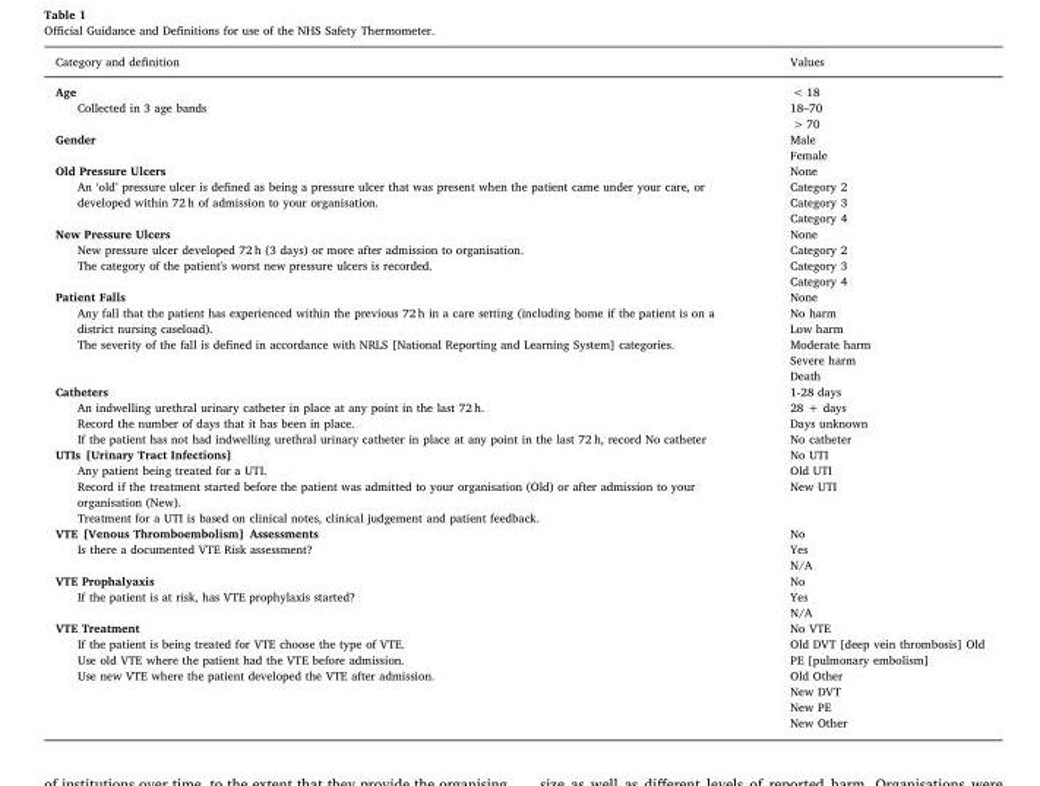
<table><thead><tr><td>Category and definition</td><td>Values</td></tr></thead><tbody><tr><td rowspan="3">Age Collected in 3 age bands</td><td>&lt; 18</td></tr><tr><td>18–70</td></tr><tr><td>&gt; 70</td></tr><tr><td rowspan="2">Gender</td><td>Male</td></tr><tr><td>Female</td></tr><tr><td rowspan="4">Old Pressure Ulcers An ‘old’ pressure ulcer is defined as being a pressure ulcer that was present when the patient came under your care, or developed within 72 h of admission to your organisation.</td><td>None</td></tr><tr><td>Category 2</td></tr><tr><td>Category 3</td></tr><tr><td>Category 4</td></tr><tr><td rowspan="4">New Pressure Ulcers New pressure ulcer developed 72 h (3 days) or more after admission to organisation. The category of the patient&#x27;s worst new pressure ulcers is recorded.</td><td>None</td></tr><tr><td>Category 2</td></tr><tr><td>Category 3</td></tr><tr><td>Category 4</td></tr><tr><td rowspan="6">Patient Falls Any fall that the patient has experienced within the previous 72 h in a care setting (including home if the patient is on a district nursing caseload). The severity of the fall is defined in accordance with NRLS [National Reporting and Learning System] categories.</td><td>None</td></tr><tr><td>No harm</td></tr><tr><td>Low harm</td></tr><tr><td>Moderate harm</td></tr><tr><td>Severe harm</td></tr><tr><td>Death</td></tr><tr><td rowspan="4">Catheters An indwelling urethral urinary catheter in place at any point in the last 72 h. Record the number of days that it has been in place. If the patient has not had indwelling urethral urinary catheter in place at any point in the last 72 h, record No catheter</td><td>1-28 days</td></tr><tr><td>28 + days</td></tr><tr><td>Days unknown</td></tr><tr><td>No catheter</td></tr><tr><td rowspan="3">UTIs [Urinary Tract Infections] Any patient being treated for a UTI. Record if the treatment started before the patient was admitted to your organisation (Old) or after admission to your organisation (New). Treatment for a UTI is based on clinical notes, clinical judgement and patient feedback.</td><td>No UTI</td></tr><tr><td>Old UTI</td></tr><tr><td>New UTI</td></tr><tr><td rowspan="3">VTE [Venous Thromboembolism] Assessments Is there a documented VTE Risk assessment?</td><td>No</td></tr><tr><td>Yes</td></tr><tr><td>N/A</td></tr><tr><td rowspan="3">VTE Prophalyaxis If the patient is at risk, has VTE prophylaxis started?</td><td>No</td></tr><tr><td>Yes</td></tr><tr><td>N/A</td></tr><tr><td rowspan="6">VTE Treatment If the patient is being treated for VTE choose the type of VTE. Use old VTE where the patient had the VTE before admission. Use new VTE where the patient developed the VTE after admission.</td><td>No VTE</td></tr><tr><td>Old DVT [deep vein thrombosis] Old PE [pulmonary embolism]</td></tr><tr><td>Old Other</td></tr><tr><td>New DVT</td></tr><tr><td>New PE</td></tr><tr><td>New Other</td></tr></tbody></table>